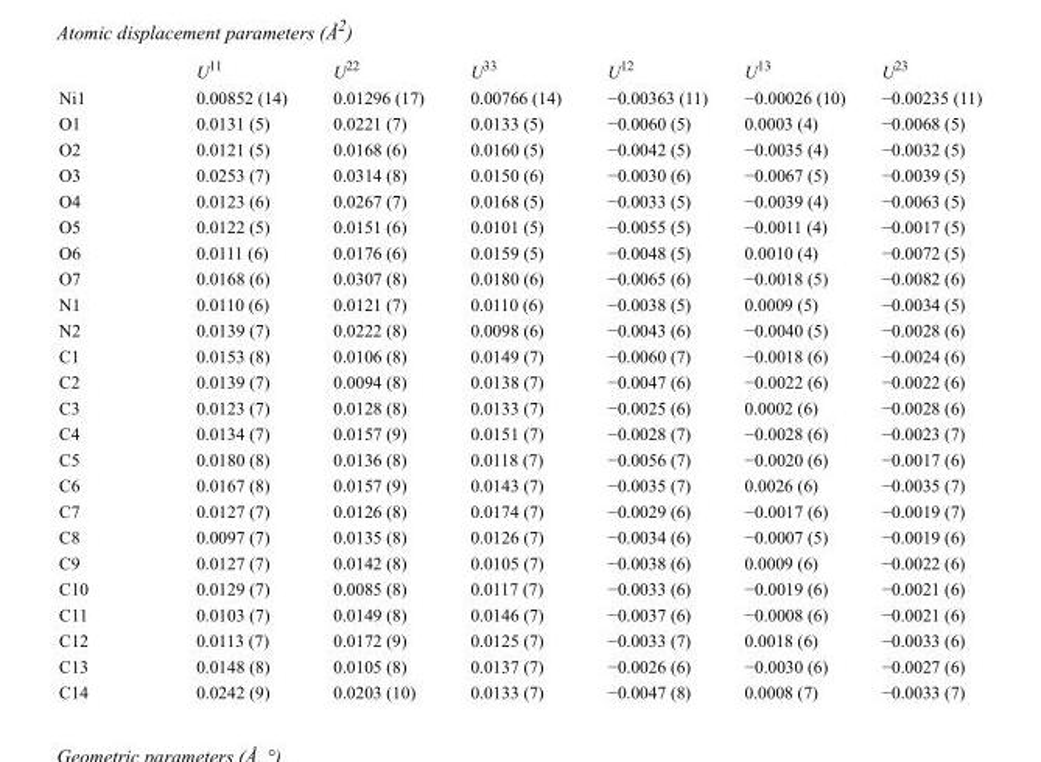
<table><thead><tr><td></td><td>U<sup>11</sup></td><td>U<sup>22</sup></td><td>U<sup>33</sup></td><td>U<sup>12</sup></td><td>U<sup>13</sup></td><td>U<sup>23</sup></td></tr></thead><tbody><tr><td>Ni1</td><td>0.00852 (14)</td><td>0.01296 (17)</td><td>0.00766 (14)</td><td>−0.00363 (11)</td><td>−0.00026 (10)</td><td>−0.00235 (11)</td></tr><tr><td>O1</td><td>0.0131 (5)</td><td>0.0221 (7)</td><td>0.0133 (5)</td><td>−0.0060 (5)</td><td>0.0003 (4)</td><td>−0.0068 (5)</td></tr><tr><td>O2</td><td>0.0121 (5)</td><td>0.0168 (6)</td><td>0.0160 (5)</td><td>−0.0042 (5)</td><td>−0.0035 (4)</td><td>−0.0032 (5)</td></tr><tr><td>O3</td><td>0.0253 (7)</td><td>0.0314 (8)</td><td>0.0150 (6)</td><td>−0.0030 (6)</td><td>−0.0067 (5)</td><td>−0.0039 (5)</td></tr><tr><td>O4</td><td>0.0123 (6)</td><td>0.0267 (7)</td><td>0.0168 (5)</td><td>−0.0033 (5)</td><td>−0.0039 (4)</td><td>−0.0063 (5)</td></tr><tr><td>O5</td><td>0.0122 (5)</td><td>0.0151 (6)</td><td>0.0101 (5)</td><td>−0.0055 (5)</td><td>−0.0011 (4)</td><td>−0.0017 (5)</td></tr><tr><td>O6</td><td>0.0111 (6)</td><td>0.0176 (6)</td><td>0.0159 (5)</td><td>−0.0048 (5)</td><td>0.0010 (4)</td><td>−0.0072 (5)</td></tr><tr><td>O7</td><td>0.0168 (6)</td><td>0.0307 (8)</td><td>0.0180 (6)</td><td>−0.0065 (6)</td><td>−0.0018 (5)</td><td>−0.0082 (6)</td></tr><tr><td>N1</td><td>0.0110 (6)</td><td>0.0121 (7)</td><td>0.0110 (6)</td><td>−0.0038 (5)</td><td>0.0009 (5)</td><td>−0.0034 (5)</td></tr><tr><td>N2</td><td>0.0139 (7)</td><td>0.0222 (8)</td><td>0.0098 (6)</td><td>−0.0043 (6)</td><td>−0.0040 (5)</td><td>−0.0028 (6)</td></tr><tr><td>C1</td><td>0.0153 (8)</td><td>0.0106 (8)</td><td>0.0149 (7)</td><td>−0.0060 (7)</td><td>−0.0018 (6)</td><td>−0.0024 (6)</td></tr><tr><td>C2</td><td>0.0139 (7)</td><td>0.0094 (8)</td><td>0.0138 (7)</td><td>−0.0047 (6)</td><td>−0.0022 (6)</td><td>−0.0022 (6)</td></tr><tr><td>C3</td><td>0.0123 (7)</td><td>0.0128 (8)</td><td>0.0133 (7)</td><td>−0.0025 (6)</td><td>0.0002 (6)</td><td>−0.0028 (6)</td></tr><tr><td>C4</td><td>0.0134 (7)</td><td>0.0157 (9)</td><td>0.0151 (7)</td><td>−0.0028 (7)</td><td>−0.0028 (6)</td><td>−0.0023 (7)</td></tr><tr><td>C5</td><td>0.0180 (8)</td><td>0.0136 (8)</td><td>0.0118 (7)</td><td>−0.0056 (7)</td><td>−0.0020 (6)</td><td>−0.0017 (6)</td></tr><tr><td>C6</td><td>0.0167 (8)</td><td>0.0157 (9)</td><td>0.0143 (7)</td><td>−0.0035 (7)</td><td>0.0026 (6)</td><td>−0.0035 (7)</td></tr><tr><td>C7</td><td>0.0127 (7)</td><td>0.0126 (8)</td><td>0.0174 (7)</td><td>−0.0029 (6)</td><td>−0.0017 (6)</td><td>−0.0019 (7)</td></tr><tr><td>C8</td><td>0.0097 (7)</td><td>0.0135 (8)</td><td>0.0126 (7)</td><td>−0.0034 (6)</td><td>−0.0007 (5)</td><td>−0.0019 (6)</td></tr><tr><td>C9</td><td>0.0127 (7)</td><td>0.0142 (8)</td><td>0.0105 (7)</td><td>−0.0038 (6)</td><td>0.0009 (6)</td><td>−0.0022 (6)</td></tr><tr><td>C10</td><td>0.0129 (7)</td><td>0.0085 (8)</td><td>0.0117 (7)</td><td>−0.0033 (6)</td><td>−0.0019 (6)</td><td>−0.0021 (6)</td></tr><tr><td>C11</td><td>0.0103 (7)</td><td>0.0149 (8)</td><td>0.0146 (7)</td><td>−0.0037 (6)</td><td>−0.0008 (6)</td><td>−0.0021 (6)</td></tr><tr><td>C12</td><td>0.0113 (7)</td><td>0.0172 (9)</td><td>0.0125 (7)</td><td>−0.0033 (7)</td><td>0.0018 (6)</td><td>−0.0033 (6)</td></tr><tr><td>C13</td><td>0.0148 (8)</td><td>0.0105 (8)</td><td>0.0137 (7)</td><td>−0.0026 (6)</td><td>−0.0030 (6)</td><td>−0.0027 (6)</td></tr><tr><td>C14</td><td>0.0242 (9)</td><td>0.0203 (10)</td><td>0.0133 (7)</td><td>−0.0047 (8)</td><td>0.0008 (7)</td><td>−0.0033 (7)</td></tr></tbody></table>